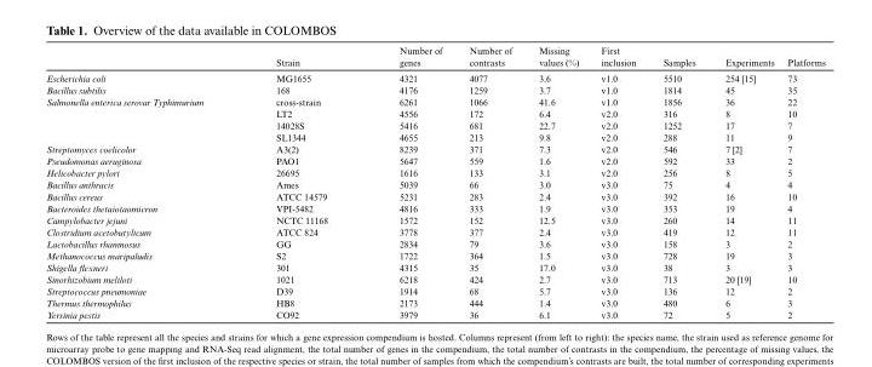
<table><thead><tr><td></td><td>Strain</td><td>Number of genes</td><td>Number of contrasts</td><td>Missing values (%)</td><td>First inclusion</td><td>Samples</td><td>Experiments</td><td>Platforms</td></tr></thead><tbody><tr><td>Escherichia coli</td><td>MG1655</td><td>4321</td><td>4077</td><td>3.6</td><td>v1.0</td><td>5510</td><td>254 [15]</td><td>73</td></tr><tr><td>Bacillus subtilis</td><td>168</td><td>4176</td><td>1259</td><td>3.7</td><td>v1.0</td><td>1814</td><td>45</td><td>35</td></tr><tr><td rowspan="4">Salmonella enterica serovar Typhimurium</td><td>cross-strain</td><td>6261</td><td>1066</td><td>41.6</td><td>v1.0</td><td>1856</td><td>36</td><td>22</td></tr><tr><td>LT2</td><td>4556</td><td>172</td><td>6.4</td><td>v2.0</td><td>316</td><td>8</td><td>10</td></tr><tr><td>14028S</td><td>5416</td><td>681</td><td>22.7</td><td>v2.0</td><td>1252</td><td>17</td><td>7</td></tr><tr><td>SL1344</td><td>4655</td><td>213</td><td>9.8</td><td>v2.0</td><td>288</td><td>11</td><td>9</td></tr><tr><td>Streptomyces coelicolor</td><td>A3(2)</td><td>8239</td><td>371</td><td>7.3</td><td>v2.0</td><td>546</td><td>7 [2]</td><td>7</td></tr><tr><td>Pseudomonas aeruginosa</td><td>PAO1</td><td>5647</td><td>559</td><td>1.6</td><td>v2.0</td><td>592</td><td>33</td><td>2</td></tr><tr><td>Helicobacter pylori</td><td>26695</td><td>1616</td><td>133</td><td>3.1</td><td>v2.0</td><td>256</td><td>8</td><td>5</td></tr><tr><td>Bacillus anthracis</td><td>Ames</td><td>5039</td><td>66</td><td>3.0</td><td>v3.0</td><td>75</td><td>4</td><td>4</td></tr><tr><td>Bacillus cereus</td><td>ATCC 14579</td><td>5231</td><td>283</td><td>2.4</td><td>v3.0</td><td>392</td><td>16</td><td>10</td></tr><tr><td>Bacteroides thetaiotaomicron</td><td>VPI-5482</td><td>4816</td><td>333</td><td>1.9</td><td>v3.0</td><td>353</td><td>19</td><td>4</td></tr><tr><td>Campylobacter jejuni</td><td>NCTC 11168</td><td>1572</td><td>152</td><td>12.5</td><td>v3.0</td><td>260</td><td>14</td><td>11</td></tr><tr><td>Clostridium acetobutylicum</td><td>ATCC 824</td><td>3778</td><td>377</td><td>2.4</td><td>v3.0</td><td>419</td><td>12</td><td>11</td></tr><tr><td>Lactobacillus rhamnosus</td><td>GG</td><td>2834</td><td>79</td><td>3.6</td><td>v3.0</td><td>158</td><td>3</td><td>2</td></tr><tr><td>Methanococcus maripaludis</td><td>S2</td><td>1722</td><td>364</td><td>1.5</td><td>v3.0</td><td>728</td><td>19</td><td>3</td></tr><tr><td>Shigella flexneri</td><td>301</td><td>4315</td><td>35</td><td>17.0</td><td>v3.0</td><td>38</td><td>3</td><td>3</td></tr><tr><td>Sinorhizobium meliloti</td><td>1021</td><td>6218</td><td>424</td><td>2.7</td><td>v3.0</td><td>713</td><td>20 [19]</td><td>10</td></tr><tr><td>Streptococcus pneumoniae</td><td>D39</td><td>1914</td><td>68</td><td>5.7</td><td>v3.0</td><td>136</td><td>12</td><td>2</td></tr><tr><td>Thermus thermophilus</td><td>HB8</td><td>2173</td><td>444</td><td>1.4</td><td>v3.0</td><td>480</td><td>6</td><td>3</td></tr><tr><td>Yersinia pestis</td><td>CO92</td><td>3979</td><td>36</td><td>6.1</td><td>v3.0</td><td>72</td><td>5</td><td>2</td></tr></tbody></table>